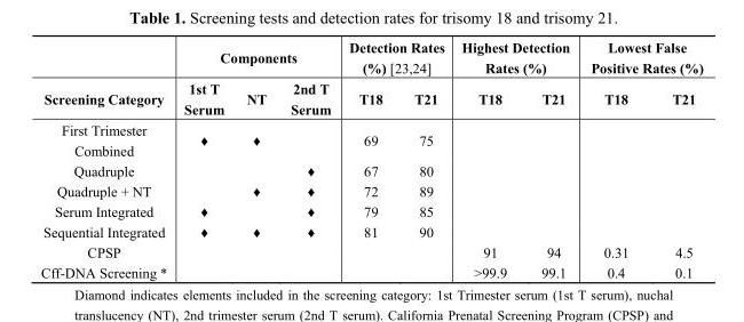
<table><thead><tr><td rowspan="2">Screening Category</td><td colspan="3">Components</td><td colspan="2">Detection Rates (%) [23,24]</td><td colspan="2">Highest Detection Rates (%)</td><td colspan="2">Lowest False Positive Rates (%)</td></tr><tr><td>1st T Serum</td><td>NT</td><td>2nd T Serum</td><td>T18</td><td>T21</td><td>T18</td><td>T21</td><td>T18</td><td>T21</td></tr></thead><tbody><tr><td>First Trimester Combined</td><td>♦</td><td>♦</td><td></td><td>69</td><td>75</td><td></td><td></td><td></td><td></td></tr><tr><td>Quadruple</td><td></td><td></td><td>♦</td><td>67</td><td>80</td><td></td><td></td><td></td><td></td></tr><tr><td>Quadruple + NT</td><td></td><td>♦</td><td>♦</td><td>72</td><td>89</td><td></td><td></td><td></td><td></td></tr><tr><td>Serum Integrated</td><td>♦</td><td></td><td>♦</td><td>79</td><td>85</td><td></td><td></td><td></td><td></td></tr><tr><td>Sequential Integrated</td><td>♦</td><td>♦</td><td>♦</td><td>81</td><td>90</td><td></td><td></td><td></td><td></td></tr><tr><td>CPSP</td><td></td><td></td><td></td><td></td><td></td><td>91</td><td>94</td><td>0.31</td><td>4.5</td></tr><tr><td>Cff-DNA Screening *</td><td></td><td></td><td></td><td></td><td></td><td>&gt;99.9</td><td>99.1</td><td>0.4</td><td>0.1</td></tr></tbody></table>